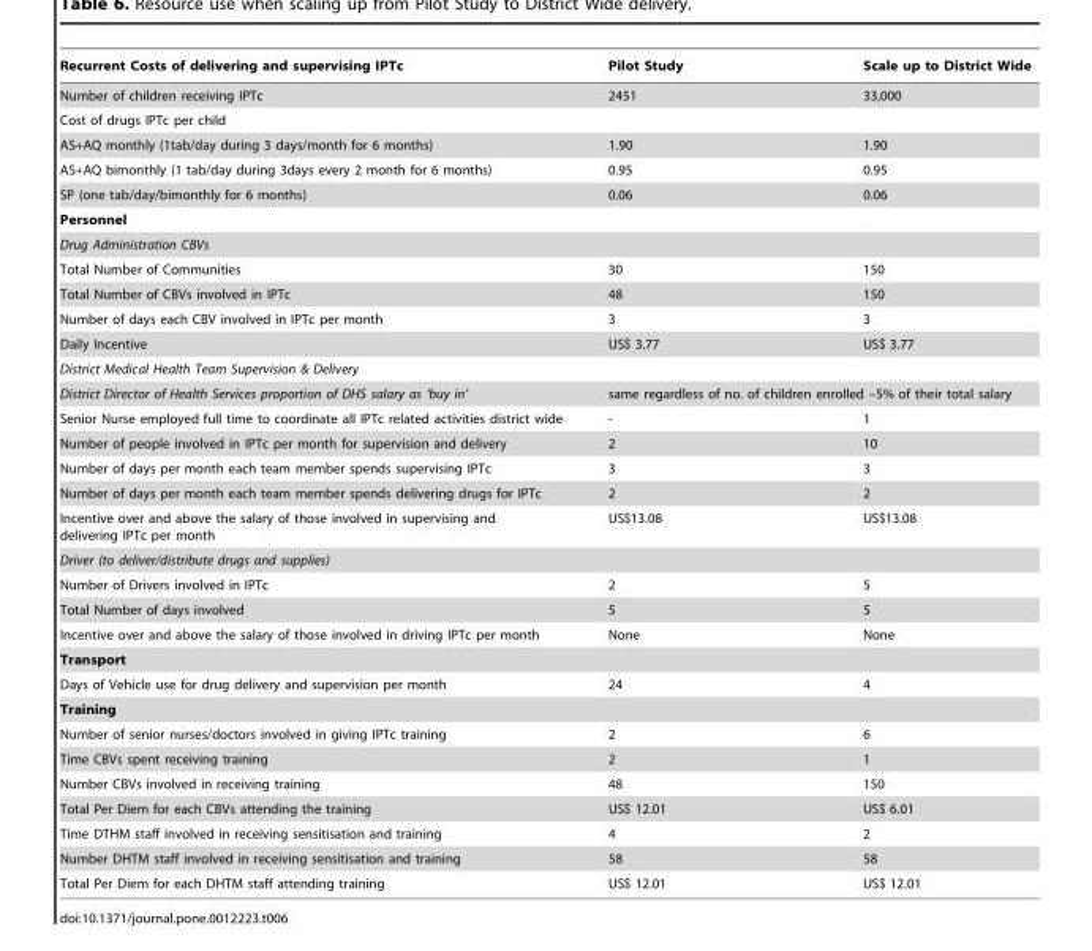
<table><thead><tr><td>Recurrent Costs of delivering and supervising IPTc</td><td>Pilot Study</td><td>Scale up to District Wide</td></tr></thead><tbody><tr><td>Number of children receiving IPTc</td><td>2451</td><td>33,000</td></tr><tr><td colspan="3">Cost of drugs IPTc per child</td></tr><tr><td>AS+AQ monthly (1tab/day during 3 days/month for 6 months)</td><td>1.90</td><td>1.90</td></tr><tr><td>AS+AQ bimonthly (1 tab/day during 3days every 2 month for 6 months)</td><td>0.95</td><td>0.95</td></tr><tr><td>SP (one tab/day/bimonthly for 6 months)</td><td>0.06</td><td>0.06</td></tr><tr><td colspan="3">Personnel</td></tr><tr><td colspan="3">Drug Administration CBVs</td></tr><tr><td>Total Number of Communities</td><td>30</td><td>150</td></tr><tr><td>Total Number of CBVs involved in IPTc</td><td>48</td><td>150</td></tr><tr><td>Number of days each CBV involved in IPTc per month</td><td>3</td><td>3</td></tr><tr><td>Daily Incentive</td><td>US$ 3.77</td><td>US$ 3.77</td></tr><tr><td colspan="3">District Medical Health Team Supervision &amp; Delivery</td></tr><tr><td>District Director of Health Services proportion of DHS salary as ‘buy in’</td><td colspan="2">same regardless of no. of children enrolled –5% of their total salary</td></tr><tr><td>Senior Nurse employed full time to coordinate all IPTc related activities district wide</td><td>-</td><td>1</td></tr><tr><td>Number of people involved in IPTc per month for supervision and delivery</td><td>2</td><td>10</td></tr><tr><td>Number of days per month each team member spends supervising IPTc</td><td>3</td><td>3</td></tr><tr><td>Number of days per month each team member spends delivering drugs for IPTc</td><td>2</td><td>2</td></tr><tr><td>Incentive over and above the salary of those involved in supervising and delivering IPTc per month</td><td>US$13.08</td><td>US$13.08</td></tr><tr><td colspan="3">Driver (to deliver/distribute drugs and supplies)</td></tr><tr><td>Number of Drivers involved in IPTc</td><td>2</td><td>5</td></tr><tr><td>Total Number of days involved</td><td>5</td><td>5</td></tr><tr><td>Incentive over and above the salary of those involved in driving IPTc per month</td><td>None</td><td>None</td></tr><tr><td colspan="3">Transport</td></tr><tr><td>Days of Vehicle use for drug delivery and supervision per month</td><td>24</td><td>4</td></tr><tr><td colspan="3">Training</td></tr><tr><td>Number of senior nurses/doctors involved in giving IPTc training</td><td>2</td><td>6</td></tr><tr><td>Time CBVs spent receiving training</td><td>2</td><td>1</td></tr><tr><td>Number CBVs involved in receiving training</td><td>48</td><td>150</td></tr><tr><td>Total Per Diem for each CBVs attending the training</td><td>US$ 12.01</td><td>US$ 6.01</td></tr><tr><td>Time DTHM staff involved in receiving sensitisation and training</td><td>4</td><td>2</td></tr><tr><td>Number DHTM staff involved in receiving sensitisation and training</td><td>58</td><td>58</td></tr><tr><td>Total Per Diem for each DHTM staff attending training</td><td>US$ 12.01</td><td>US$ 12.01</td></tr></tbody></table>